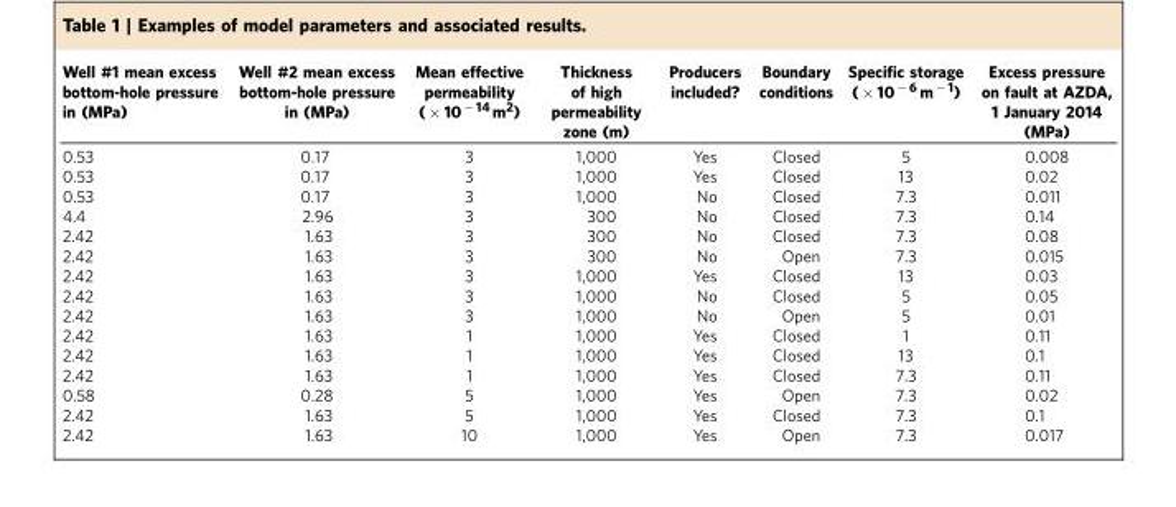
<table><thead><tr><td>Well #1 mean excess bottom-hole pressure in (MPa)</td><td>Well #2 mean excess bottom-hole pressure in (MPa)</td><td>Mean effective permeability ( × 10 <sup>− 14</sup> m<sup>2</sup>)</td><td>Thickness of high permeability zone (m)</td><td>Producers included?</td><td>Boundary conditions</td><td>Specific storage ( × 10 <sup>− 6</sup> m <sup>− 1</sup>)</td><td>Excess pressure on fault at AZDA, 1 January 2014 (MPa)</td></tr></thead><tbody><tr><td>0.53</td><td>0.17</td><td>3</td><td>1,000</td><td>Yes</td><td>Closed</td><td>5</td><td>0.008</td></tr><tr><td>0.53</td><td>0.17</td><td>3</td><td>1,000</td><td>Yes</td><td>Closed</td><td>13</td><td>0.02</td></tr><tr><td>0.53</td><td>0.17</td><td>3</td><td>1,000</td><td>No</td><td>Closed</td><td>7.3</td><td>0.011</td></tr><tr><td>4.4</td><td>2.96</td><td>3</td><td>300</td><td>No</td><td>Closed</td><td>7.3</td><td>0.14</td></tr><tr><td>2.42</td><td>1.63</td><td>3</td><td>300</td><td>No</td><td>Closed</td><td>7.3</td><td>0.08</td></tr><tr><td>2.42</td><td>1.63</td><td>3</td><td>300</td><td>No</td><td>Open</td><td>7.3</td><td>0.015</td></tr><tr><td>2.42</td><td>1.63</td><td>3</td><td>1,000</td><td>Yes</td><td>Closed</td><td>13</td><td>0.03</td></tr><tr><td>2.42</td><td>1.63</td><td>3</td><td>1,000</td><td>No</td><td>Closed</td><td>5</td><td>0.05</td></tr><tr><td>2.42</td><td>1.63</td><td>3</td><td>1,000</td><td>No</td><td>Open</td><td>5</td><td>0.01</td></tr><tr><td>2.42</td><td>1.63</td><td>1</td><td>1,000</td><td>Yes</td><td>Closed</td><td>1</td><td>0.11</td></tr><tr><td>2.42</td><td>1.63</td><td>1</td><td>1,000</td><td>Yes</td><td>Closed</td><td>13</td><td>0.1</td></tr><tr><td>2.42</td><td>1.63</td><td>1</td><td>1,000</td><td>Yes</td><td>Closed</td><td>7.3</td><td>0.11</td></tr><tr><td>0.58</td><td>0.28</td><td>5</td><td>1,000</td><td>Yes</td><td>Open</td><td>7.3</td><td>0.02</td></tr><tr><td>2.42</td><td>1.63</td><td>5</td><td>1,000</td><td>Yes</td><td>Closed</td><td>7.3</td><td>0.1</td></tr><tr><td>2.42</td><td>1.63</td><td>10</td><td>1,000</td><td>Yes</td><td>Open</td><td>7.3</td><td>0.017</td></tr></tbody></table>